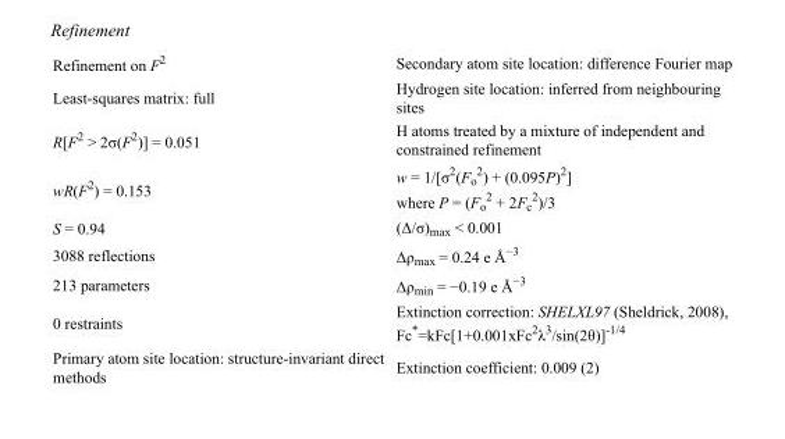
<table><tbody><tr><td>Refinement on F<sup>2</sup></td><td>Secondary atom site location: difference Fourier map</td></tr><tr><td>Least-squares matrix: full</td><td>Hydrogen site location: inferred from neighbouring sites</td></tr><tr><td>R[F<sup>2</sup> &gt; 2σ(F<sup>2</sup>)] = 0.051</td><td>H atoms treated by a mixture of independent and constrained refinement</td></tr><tr><td>wR(F<sup>2</sup>) = 0.153</td><td>w = 1/[σ<sup>2</sup>(F<sub>o</sub> <sup>2</sup>) + (0.095P)<sup>2</sup>] where P = (F<sub>o</sub> <sup>2</sup> + 2F<sub>c</sub> <sup>2</sup>)/3</td></tr><tr><td>S = 0.94</td><td>(Δ/σ)<sub>max</sub> &lt; 0.001</td></tr><tr><td>3088 reflections</td><td>Δρ<sub>max</sub> = 0.24 e Å<sup>−3</sup></td></tr><tr><td>213 parameters</td><td>Δρ<sub>min</sub> = −0.19 e Å<sup>−3</sup></td></tr><tr><td>0 restraints</td><td>Extinction correction: SHELXL97 (Sheldrick, 2008), Fc*=kFc[1+0.001xFc<sup>2</sup>λ<sup>3</sup>/sin(2θ)]<sup>-1/4</sup></td></tr><tr><td>Primary atom site location: structure-invariant direct methods</td><td>Extinction coefficient: 0.009 (2)</td></tr></tbody></table>